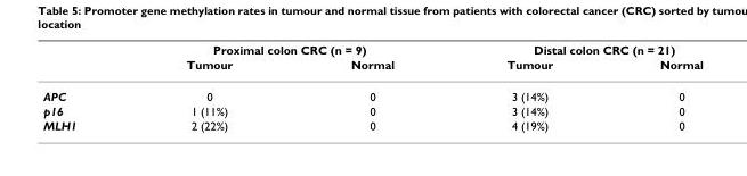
<table><thead><tr><td rowspan="2"></td><td colspan="2">Proximal colon CRC (n = 9)</td><td colspan="2">Distal colon CRC (n = 21)</td></tr><tr><td>Tumour</td><td>Normal</td><td>Tumour</td><td>Normal</td></tr></thead><tbody><tr><td>APC</td><td>0</td><td>0</td><td>3 (14%)</td><td>0</td></tr><tr><td>p16</td><td>1 (11%)</td><td>0</td><td>3 (14%)</td><td>0</td></tr><tr><td>MLH1</td><td>2 (22%)</td><td>0</td><td>4 (19%)</td><td>0</td></tr></tbody></table>